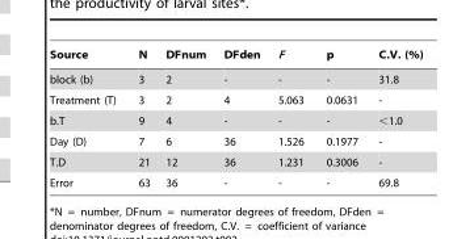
<table><thead><tr><td>Source</td><td>N</td><td>DFnum</td><td>DFden</td><td>F</td><td>p</td><td>C.V. (%)</td></tr></thead><tbody><tr><td>block (b)</td><td>3</td><td>2</td><td>-</td><td>-</td><td>-</td><td>31.8</td></tr><tr><td>Treatment (T)</td><td>3</td><td>2</td><td>4</td><td>5.063</td><td>0.0631</td><td>-</td></tr><tr><td>b.T</td><td>9</td><td>4</td><td>-</td><td>-</td><td>-</td><td>&lt;1.0</td></tr><tr><td>Day (D)</td><td>7</td><td>6</td><td>36</td><td>1.526</td><td>0.1977</td><td>-</td></tr><tr><td>T.D</td><td>21</td><td>12</td><td>36</td><td>1.231</td><td>0.3006</td><td>-</td></tr><tr><td>Error</td><td>63</td><td>36</td><td>-</td><td>-</td><td>-</td><td>69.8</td></tr></tbody></table>